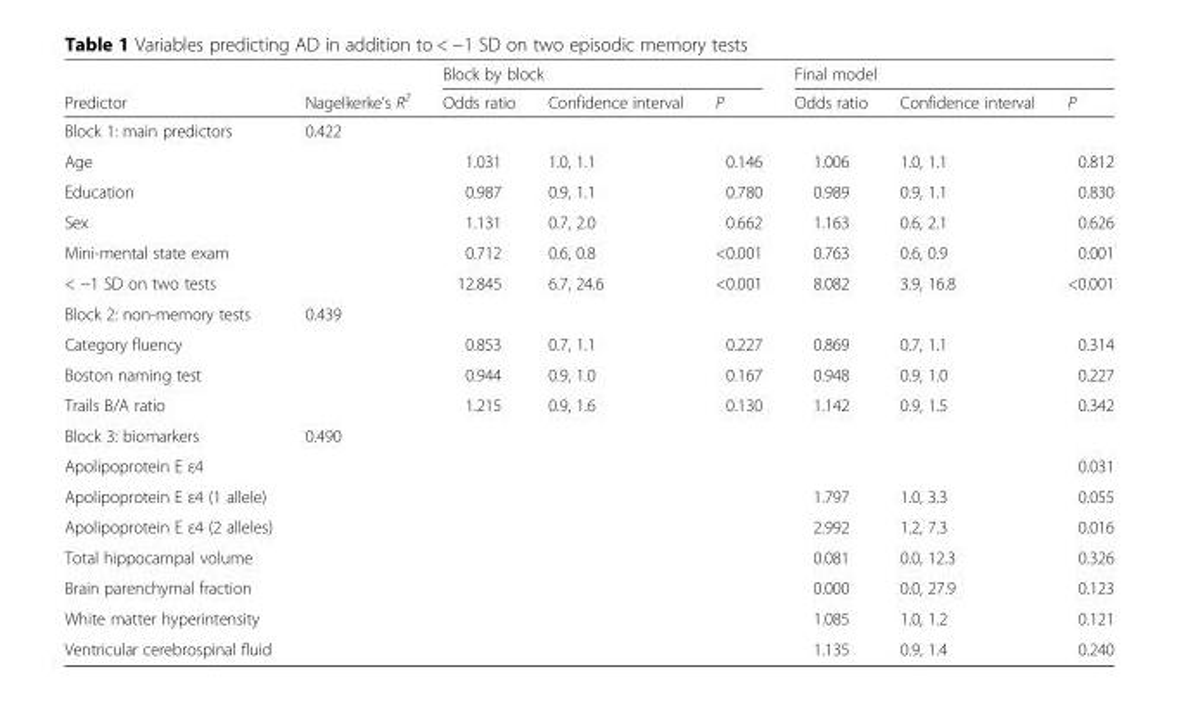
<table><thead><tr><td rowspan="2">Predictor</td><td rowspan="2">Nagelkerke’s R<sup>2</sup></td><td colspan="3">Block by block</td><td colspan="3">Final model</td></tr><tr><td>Odds ratio</td><td>Confidence interval</td><td>P</td><td>Odds ratio</td><td>Confidence interval</td><td>P</td></tr></thead><tbody><tr><td>Block 1: main predictors</td><td>0.422</td><td></td><td></td><td></td><td></td><td></td><td></td></tr><tr><td>Age</td><td></td><td>1.031</td><td>1.0, 1.1</td><td>0.146</td><td>1.006</td><td>1.0, 1.1</td><td>0.812</td></tr><tr><td>Education</td><td></td><td>0.987</td><td>0.9, 1.1</td><td>0.780</td><td>0.989</td><td>0.9, 1.1</td><td>0.830</td></tr><tr><td>Sex</td><td></td><td>1.131</td><td>0.7, 2.0</td><td>0.662</td><td>1.163</td><td>0.6, 2.1</td><td>0.626</td></tr><tr><td>Mini-mental state exam</td><td></td><td>0.712</td><td>0.6, 0.8</td><td>&lt;0.001</td><td>0.763</td><td>0.6, 0.9</td><td>0.001</td></tr><tr><td>&lt; −1 SD on two tests</td><td></td><td>12.845</td><td>6.7, 24.6</td><td>&lt;0.001</td><td>8.082</td><td>3.9, 16.8</td><td>&lt;0.001</td></tr><tr><td>Block 2: non-memory tests</td><td>0.439</td><td></td><td></td><td></td><td></td><td></td><td></td></tr><tr><td>Category fluency</td><td></td><td>0.853</td><td>0.7, 1.1</td><td>0.227</td><td>0.869</td><td>0.7, 1.1</td><td>0.314</td></tr><tr><td>Boston naming test</td><td></td><td>0.944</td><td>0.9, 1.0</td><td>0.167</td><td>0.948</td><td>0.9, 1.0</td><td>0.227</td></tr><tr><td>Trails B/A ratio</td><td></td><td>1.215</td><td>0.9, 1.6</td><td>0.130</td><td>1.142</td><td>0.9, 1.5</td><td>0.342</td></tr><tr><td>Block 3: biomarkers</td><td>0.490</td><td></td><td></td><td></td><td></td><td></td><td></td></tr><tr><td>Apolipoprotein E ε4</td><td></td><td></td><td></td><td></td><td></td><td></td><td>0.031</td></tr><tr><td>Apolipoprotein E ε4 (1 allele)</td><td></td><td></td><td></td><td></td><td>1.797</td><td>1.0, 3.3</td><td>0.055</td></tr><tr><td>Apolipoprotein E ε4 (2 alleles)</td><td></td><td></td><td></td><td></td><td>2.992</td><td>1.2, 7.3</td><td>0.016</td></tr><tr><td>Total hippocampal volume</td><td></td><td></td><td></td><td></td><td>0.081</td><td>0.0, 12.3</td><td>0.326</td></tr><tr><td>Brain parenchymal fraction</td><td></td><td></td><td></td><td></td><td>0.000</td><td>0.0, 27.9</td><td>0.123</td></tr><tr><td>White matter hyperintensity</td><td></td><td></td><td></td><td></td><td>1.085</td><td>1.0, 1.2</td><td>0.121</td></tr><tr><td>Ventricular cerebrospinal fluid</td><td></td><td></td><td></td><td></td><td>1.135</td><td>0.9, 1.4</td><td>0.240</td></tr></tbody></table>